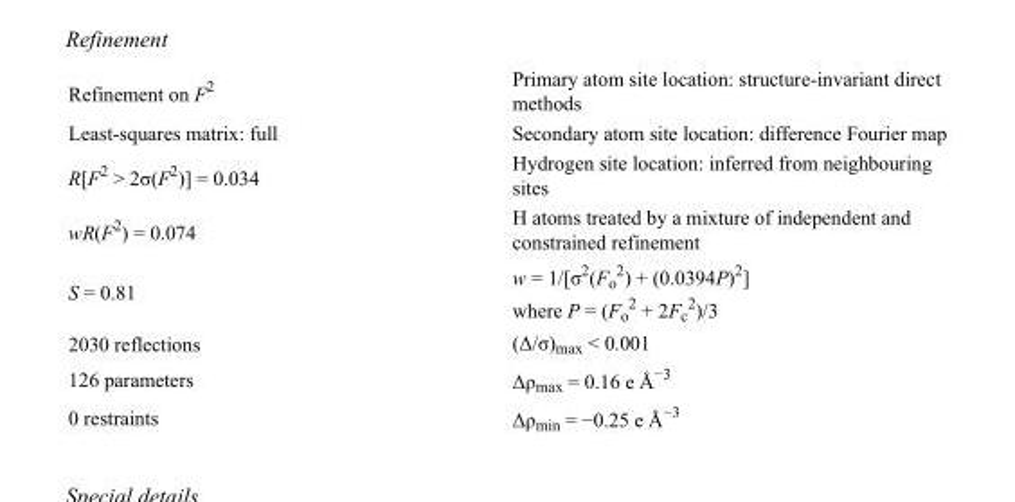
<table><tbody><tr><td>Refinement on F<sup>2</sup></td><td>Primary atom site location: structure-invariant direct methods</td></tr><tr><td>Least-squares matrix: full</td><td>Secondary atom site location: difference Fourier map</td></tr><tr><td>R[F<sup>2</sup> &gt; 2σ(F<sup>2</sup>)] = 0.034</td><td>Hydrogen site location: inferred from neighbouring sites</td></tr><tr><td>wR(F<sup>2</sup>) = 0.074</td><td>H atoms treated by a mixture of independent and constrained refinement</td></tr><tr><td>S = 0.81</td><td>w = 1/[σ<sup>2</sup>(F<sub>o</sub> <sup>2</sup>) + (0.0394P)<sup>2</sup>] where P = (F<sub>o</sub> <sup>2</sup> + 2F<sub>c</sub> <sup>2</sup>)/3</td></tr><tr><td>2030 reflections</td><td>(Δ/σ)<sub>max</sub> &lt; 0.001</td></tr><tr><td>126 parameters</td><td>Δρ<sub>max</sub> = 0.16 e Å<sup>−3</sup></td></tr><tr><td>0 restraints</td><td>Δρ<sub>min</sub> = −0.25 e Å<sup>−3</sup></td></tr></tbody></table>